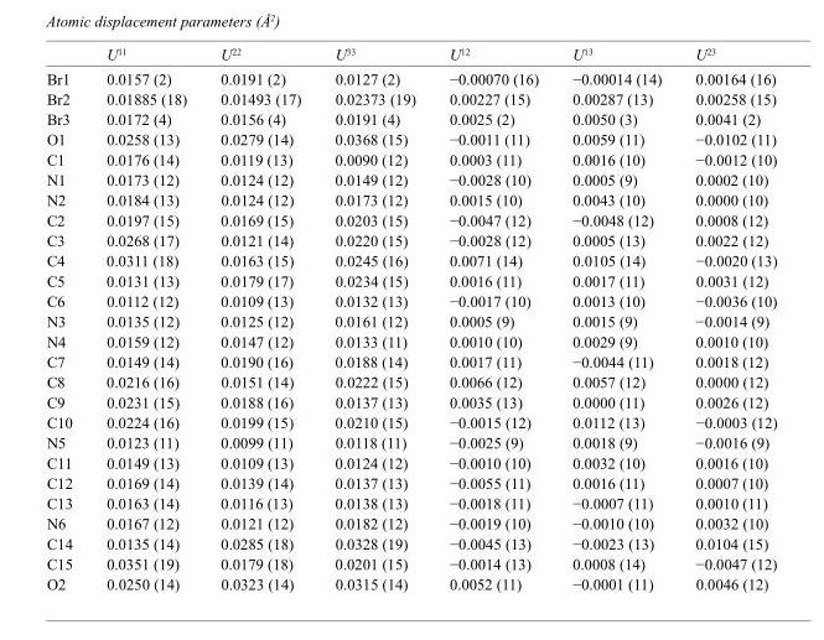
<table><thead><tr><td></td><td>U<sup>11</sup></td><td>U<sup>22</sup></td><td>U<sup>33</sup></td><td>U<sup>12</sup></td><td>U<sup>13</sup></td><td>U<sup>23</sup></td></tr></thead><tbody><tr><td>Br1</td><td>0.0157 (2)</td><td>0.0191 (2)</td><td>0.0127 (2)</td><td>−0.00070 (16)</td><td>−0.00014 (14)</td><td>0.00164 (16)</td></tr><tr><td>Br2</td><td>0.01885 (18)</td><td>0.01493 (17)</td><td>0.02373 (19)</td><td>0.00227 (15)</td><td>0.00287 (13)</td><td>0.00258 (15)</td></tr><tr><td>Br3</td><td>0.0172 (4)</td><td>0.0156 (4)</td><td>0.0191 (4)</td><td>0.0025 (2)</td><td>0.0050 (3)</td><td>0.0041 (2)</td></tr><tr><td>O1</td><td>0.0258 (13)</td><td>0.0279 (14)</td><td>0.0368 (15)</td><td>−0.0011 (11)</td><td>0.0059 (11)</td><td>−0.0102 (11)</td></tr><tr><td>C1</td><td>0.0176 (14)</td><td>0.0119 (13)</td><td>0.0090 (12)</td><td>0.0003 (11)</td><td>0.0016 (10)</td><td>−0.0012 (10)</td></tr><tr><td>N1</td><td>0.0173 (12)</td><td>0.0124 (12)</td><td>0.0149 (12)</td><td>−0.0028 (10)</td><td>0.0005 (9)</td><td>0.0002 (10)</td></tr><tr><td>N2</td><td>0.0184 (13)</td><td>0.0124 (12)</td><td>0.0173 (12)</td><td>0.0015 (10)</td><td>0.0043 (10)</td><td>0.0000 (10)</td></tr><tr><td>C2</td><td>0.0197 (15)</td><td>0.0169 (15)</td><td>0.0203 (15)</td><td>−0.0047 (12)</td><td>−0.0048 (12)</td><td>0.0008 (12)</td></tr><tr><td>C3</td><td>0.0268 (17)</td><td>0.0121 (14)</td><td>0.0220 (15)</td><td>−0.0028 (12)</td><td>0.0005 (13)</td><td>0.0022 (12)</td></tr><tr><td>C4</td><td>0.0311 (18)</td><td>0.0163 (15)</td><td>0.0245 (16)</td><td>0.0071 (14)</td><td>0.0105 (14)</td><td>−0.0020 (13)</td></tr><tr><td>C5</td><td>0.0131 (13)</td><td>0.0179 (17)</td><td>0.0234 (15)</td><td>0.0016 (11)</td><td>0.0017 (11)</td><td>0.0031 (12)</td></tr><tr><td>C6</td><td>0.0112 (12)</td><td>0.0109 (13)</td><td>0.0132 (13)</td><td>−0.0017 (10)</td><td>0.0013 (10)</td><td>−0.0036 (10)</td></tr><tr><td>N3</td><td>0.0135 (12)</td><td>0.0125 (12)</td><td>0.0161 (12)</td><td>0.0005 (9)</td><td>0.0015 (9)</td><td>−0.0014 (9)</td></tr><tr><td>N4</td><td>0.0159 (12)</td><td>0.0147 (12)</td><td>0.0133 (11)</td><td>0.0010 (10)</td><td>0.0029 (9)</td><td>0.0010 (10)</td></tr><tr><td>C7</td><td>0.0149 (14)</td><td>0.0190 (16)</td><td>0.0188 (14)</td><td>0.0017 (11)</td><td>−0.0044 (11)</td><td>0.0018 (12)</td></tr><tr><td>C8</td><td>0.0216 (16)</td><td>0.0151 (14)</td><td>0.0222 (15)</td><td>0.0066 (12)</td><td>0.0057 (12)</td><td>0.0000 (12)</td></tr><tr><td>C9</td><td>0.0231 (15)</td><td>0.0188 (16)</td><td>0.0137 (13)</td><td>0.0035 (13)</td><td>0.0000 (11)</td><td>0.0026 (12)</td></tr><tr><td>C10</td><td>0.0224 (16)</td><td>0.0199 (15)</td><td>0.0210 (15)</td><td>−0.0015 (12)</td><td>0.0112 (13)</td><td>−0.0003 (12)</td></tr><tr><td>N5</td><td>0.0123 (11)</td><td>0.0099 (11)</td><td>0.0118 (11)</td><td>−0.0025 (9)</td><td>0.0018 (9)</td><td>−0.0016 (9)</td></tr><tr><td>C11</td><td>0.0149 (13)</td><td>0.0109 (13)</td><td>0.0124 (12)</td><td>−0.0010 (10)</td><td>0.0032 (10)</td><td>0.0016 (10)</td></tr><tr><td>C12</td><td>0.0169 (14)</td><td>0.0139 (14)</td><td>0.0137 (13)</td><td>−0.0055 (11)</td><td>0.0016 (11)</td><td>0.0007 (10)</td></tr><tr><td>C13</td><td>0.0163 (14)</td><td>0.0116 (13)</td><td>0.0138 (13)</td><td>−0.0018 (11)</td><td>−0.0007 (11)</td><td>0.0010 (11)</td></tr><tr><td>N6</td><td>0.0167 (12)</td><td>0.0121 (12)</td><td>0.0182 (12)</td><td>−0.0019 (10)</td><td>−0.0010 (10)</td><td>0.0032 (10)</td></tr><tr><td>C14</td><td>0.0135 (14)</td><td>0.0285 (18)</td><td>0.0328 (19)</td><td>−0.0045 (13)</td><td>−0.0023 (13)</td><td>0.0104 (15)</td></tr><tr><td>C15</td><td>0.0351 (19)</td><td>0.0179 (18)</td><td>0.0201 (15)</td><td>−0.0014 (13)</td><td>0.0008 (14)</td><td>−0.0047 (12)</td></tr><tr><td>O2</td><td>0.0250 (14)</td><td>0.0323 (14)</td><td>0.0315 (14)</td><td>0.0052 (11)</td><td>−0.0001 (11)</td><td>0.0046 (12)</td></tr></tbody></table>